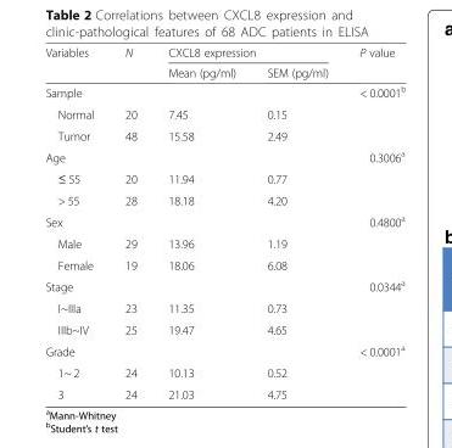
<table><thead><tr><td rowspan="2">Variables</td><td rowspan="2">N</td><td colspan="2">CXCL8 expression</td><td rowspan="2">P value</td></tr><tr><td>Mean (pg/ml)</td><td>SEM (pg/ml)</td></tr></thead><tbody><tr><td>Sample</td><td></td><td></td><td></td><td>&lt; 0.0001<sup>b</sup></td></tr><tr><td>Normal</td><td>20</td><td>7.45</td><td>0.15</td><td></td></tr><tr><td>Tumor</td><td>48</td><td>15.58</td><td>2.49</td><td></td></tr><tr><td>Age</td><td></td><td></td><td></td><td>0.3006<sup>a</sup></td></tr><tr><td>≤ 55</td><td>20</td><td>11.94</td><td>0.77</td><td></td></tr><tr><td>&gt; 55</td><td>28</td><td>18.18</td><td>4.20</td><td></td></tr><tr><td>Sex</td><td></td><td></td><td></td><td>0.4800<sup>a</sup></td></tr><tr><td>Male</td><td>29</td><td>13.96</td><td>1.19</td><td></td></tr><tr><td>Female</td><td>19</td><td>18.06</td><td>6.08</td><td></td></tr><tr><td>Stage</td><td></td><td></td><td></td><td>0.0344<sup>a</sup></td></tr><tr><td>I~IIIa</td><td>23</td><td>11.35</td><td>0.73</td><td></td></tr><tr><td>IIIb~IV</td><td>25</td><td>19.47</td><td>4.65</td><td></td></tr><tr><td>Grade</td><td></td><td></td><td></td><td>&lt; 0.0001<sup>a</sup></td></tr><tr><td>1~ 2</td><td>24</td><td>10.13</td><td>0.52</td><td></td></tr><tr><td>3</td><td>24</td><td>21.03</td><td>4.75</td><td></td></tr></tbody></table>